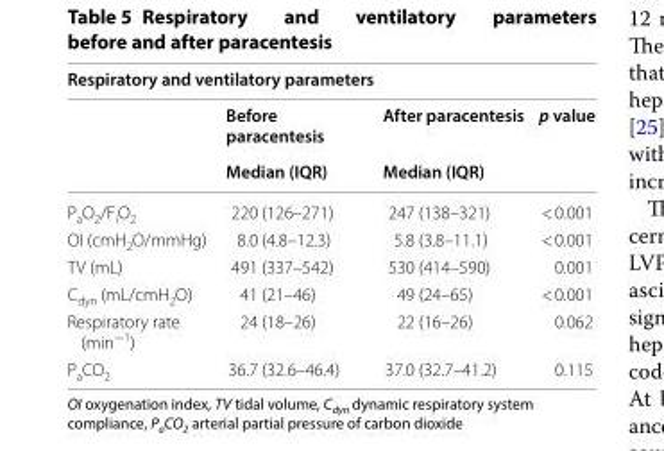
<table><thead><tr><td colspan="4">Respiratory and ventilatory parameters</td></tr><tr><td rowspan="2"></td><td rowspan="2">Before paracentesis Median (IQR)</td><td rowspan="2">After paracentesis Median (IQR)</td><td rowspan="2">p value</td></tr><tr></tr></thead><tbody><tr><td>P<sub>a</sub>O<sub>2</sub>/F<sub>i</sub>O<sub>2</sub></td><td>220 (126–271)</td><td>247 (138–321)</td><td>&lt; 0.001</td></tr><tr><td>OI (cmH<sub>2</sub>O/mmHg)</td><td>8.0 (4.8–12.3)</td><td>5.8 (3.8–11.1)</td><td>&lt; 0.001</td></tr><tr><td>TV (mL)</td><td>491 (337–542)</td><td>530 (414–590)</td><td>0.001</td></tr><tr><td>C<sub>dyn</sub> (mL/cmH<sub>2</sub>O)</td><td>41 (21–46)</td><td>49 (24–65)</td><td>&lt; 0.001</td></tr><tr><td>Respiratory rate (min<sup>−1</sup>)</td><td>24 (18–26)</td><td>22 (16–26)</td><td>0.062</td></tr><tr><td>P<sub>a</sub>CO<sub>2</sub></td><td>36.7 (32.6–46.4)</td><td>37.0 (32.7–41.2)</td><td>0.115</td></tr></tbody></table>